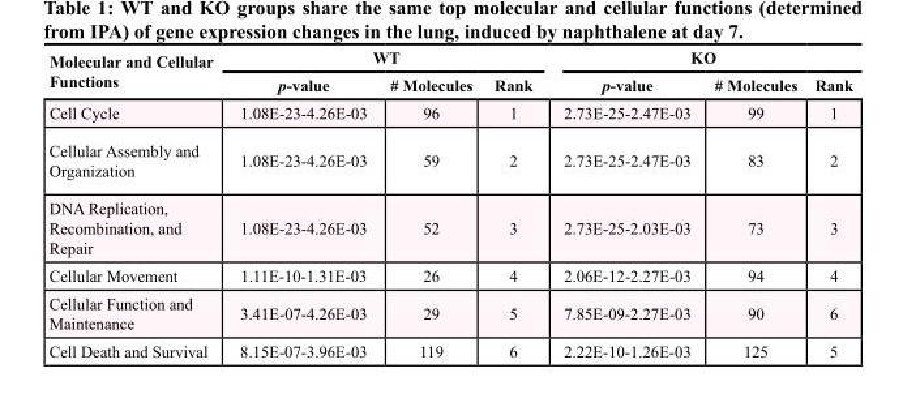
<table><thead><tr><td rowspan="2">Molecular and Cellular Functions</td><td colspan="3">WT</td><td colspan="3">KO</td></tr><tr><td>p-value</td><td># Molecules</td><td>Rank</td><td>p-value</td><td># Molecules</td><td>Rank</td></tr></thead><tbody><tr><td>Cell Cycle</td><td>1.08E-23-4.26E-03</td><td>96</td><td>1</td><td>2.73E-25-2.47E-03</td><td>99</td><td>1</td></tr><tr><td>Cellular Assembly and Organization</td><td>1.08E-23-4.26E-03</td><td>59</td><td>2</td><td>2.73E-25-2.47E-03</td><td>83</td><td>2</td></tr><tr><td>DNA Replication, Recombination, and Repair</td><td>1.08E-23-4.26E-03</td><td>52</td><td>3</td><td>2.73E-25-2.03E-03</td><td>73</td><td>3</td></tr><tr><td>Cellular Movement</td><td>1.11E-10-1.31E-03</td><td>26</td><td>4</td><td>2.06E-12-2.27E-03</td><td>94</td><td>4</td></tr><tr><td>Cellular Function and Maintenance</td><td>3.41E-07-4.26E-03</td><td>29</td><td>5</td><td>7.85E-09-2.27E-03</td><td>90</td><td>6</td></tr><tr><td>Cell Death and Survival</td><td>8.15E-07-3.96E-03</td><td>119</td><td>6</td><td>2.22E-10-1.26E-03</td><td>125</td><td>5</td></tr></tbody></table>